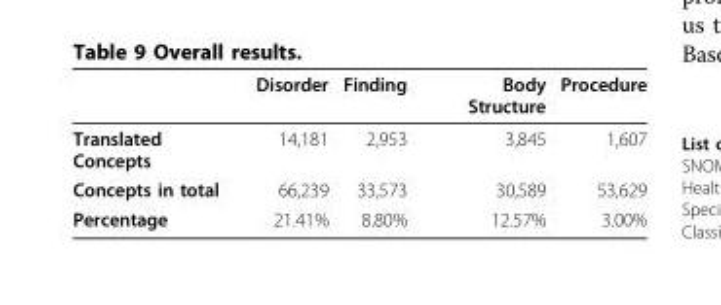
<table><thead><tr><td></td><td>Disorder</td><td>Finding</td><td>Body Structure</td><td>Procedure</td></tr></thead><tbody><tr><td>Translated Concepts</td><td>14,181</td><td>2,953</td><td>3,845</td><td>1,607</td></tr><tr><td>Concepts in total</td><td>66,239</td><td>33,573</td><td>30,589</td><td>53,629</td></tr><tr><td>Percentage</td><td>21.41%</td><td>8.80%</td><td>12.57%</td><td>3.00%</td></tr></tbody></table>